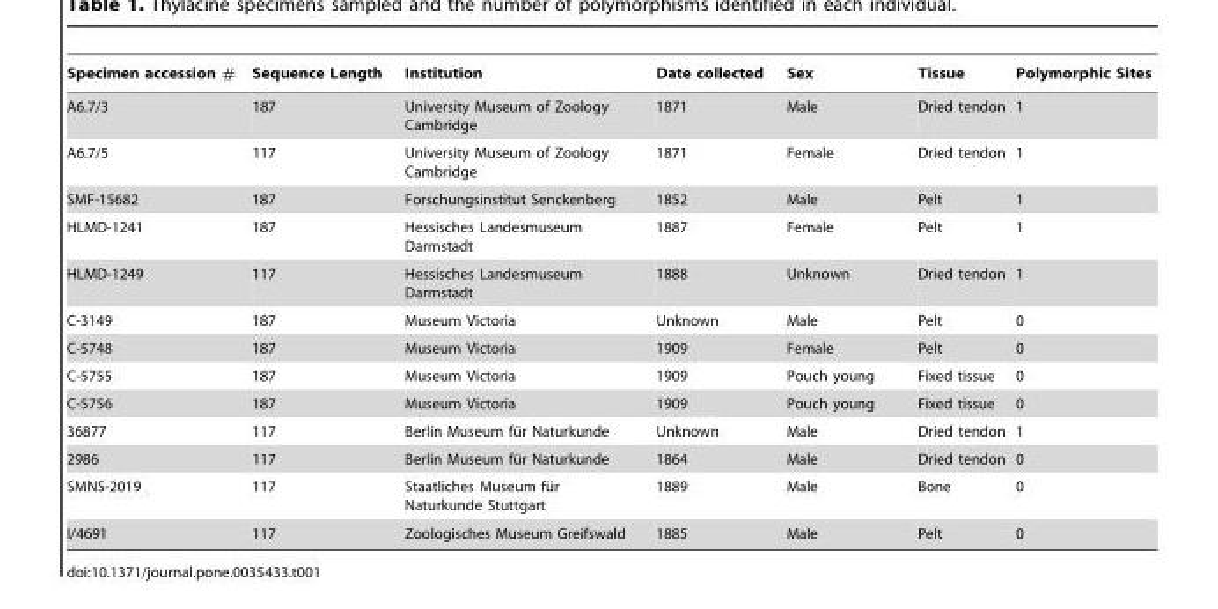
<table><thead><tr><td>Specimen accession #</td><td>Sequence Length</td><td>Institution</td><td>Date collected</td><td>Sex</td><td>Tissue</td><td>Polymorphic Sites</td></tr></thead><tbody><tr><td>A6.7/3</td><td>187</td><td>University Museum of Zoology Cambridge</td><td>1871</td><td>Male</td><td>Dried tendon</td><td>1</td></tr><tr><td>A6.7/5</td><td>117</td><td>University Museum of Zoology Cambridge</td><td>1871</td><td>Female</td><td>Dried tendon</td><td>1</td></tr><tr><td>SMF-15682</td><td>187</td><td>Forschungsinstitut Senckenberg</td><td>1852</td><td>Male</td><td>Pelt</td><td>1</td></tr><tr><td>HLMD-1241</td><td>187</td><td>Hessisches Landesmuseum Darmstadt</td><td>1887</td><td>Female</td><td>Pelt</td><td>1</td></tr><tr><td>HLMD-1249</td><td>117</td><td>Hessisches Landesmuseum Darmstadt</td><td>1888</td><td>Unknown</td><td>Dried tendon</td><td>1</td></tr><tr><td>C-3149</td><td>187</td><td>Museum Victoria</td><td>Unknown</td><td>Male</td><td>Pelt</td><td>0</td></tr><tr><td>C-5748</td><td>187</td><td>Museum Victoria</td><td>1909</td><td>Female</td><td>Pelt</td><td>0</td></tr><tr><td>C-5755</td><td>187</td><td>Museum Victoria</td><td>1909</td><td>Pouch young</td><td>Fixed tissue</td><td>0</td></tr><tr><td>C-5756</td><td>187</td><td>Museum Victoria</td><td>1909</td><td>Pouch young</td><td>Fixed tissue</td><td>0</td></tr><tr><td>36877</td><td>117</td><td>Berlin Museum fu¨r Naturkunde</td><td>Unknown</td><td>Male</td><td>Dried tendon</td><td>1</td></tr><tr><td>2986</td><td>117</td><td>Berlin Museum fu¨r Naturkunde</td><td>1864</td><td>Male</td><td>Dried tendon</td><td>0</td></tr><tr><td>SMNS-2019</td><td>117</td><td>Staatliches Museum fu¨r Naturkunde Stuttgart</td><td>1889</td><td>Male</td><td>Bone</td><td>0</td></tr><tr><td>I/4691</td><td>117</td><td>Zoologisches Museum Greifswald</td><td>1885</td><td>Male</td><td>Pelt</td><td>0</td></tr></tbody></table>